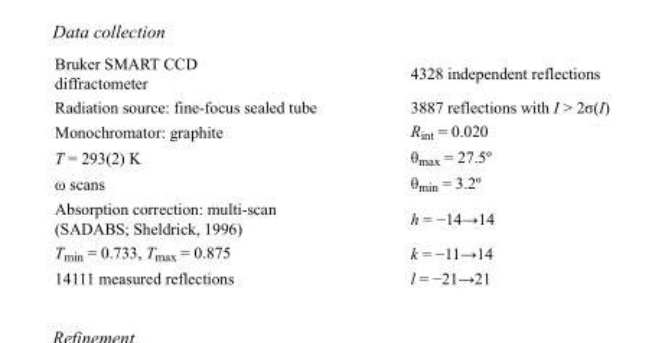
<table><tbody><tr><td>Bruker SMART CCD diffractometer</td><td>4328 independent reflections</td></tr><tr><td>Radiation source: fine-focus sealed tube</td><td>3887 reflections with I &gt; 2σ(I)</td></tr><tr><td>Monochromator: graphite</td><td>R<sub>int</sub> = 0.020</td></tr><tr><td>T = 293(2) K</td><td>θ<sub>max</sub> = 27.5º</td></tr><tr><td>ω scans</td><td>θ<sub>min</sub> = 3.2º</td></tr><tr><td>Absorption correction: multi-scan (SADABS; Sheldrick, 1996)</td><td>h = −14→14</td></tr><tr><td>T<sub>min</sub> = 0.733, T<sub>max</sub> = 0.875</td><td>k = −11→14</td></tr><tr><td>14111 measured reflections</td><td>l = −21→21</td></tr></tbody></table>